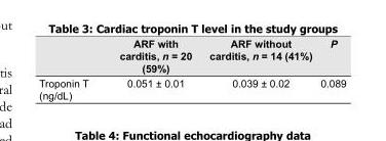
<table><thead><tr><td></td><td>ARF with carditis, n = 20 (59%)</td><td>ARF without carditis, n = 14 (41%)</td><td>P</td></tr></thead><tbody><tr><td>Troponin T (ng/dL)</td><td>0.051 ± 0.01</td><td>0.039 ± 0.02</td><td>0.089</td></tr></tbody></table>